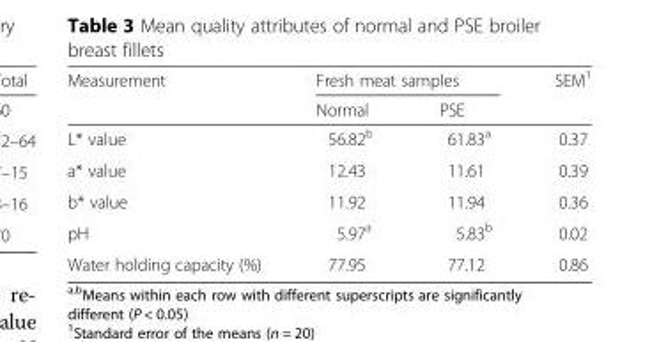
<table><thead><tr><td rowspan="2">Measurement</td><td colspan="2">Fresh meat samples</td><td rowspan="2">SEM<sup>1</sup></td></tr><tr><td>Normal</td><td>PSE</td></tr></thead><tbody><tr><td>L* value</td><td>56.82<sup>b</sup></td><td>61.83<sup>a</sup></td><td>0.37</td></tr><tr><td>a* value</td><td>12.43</td><td>11.61</td><td>0.39</td></tr><tr><td>b* value</td><td>11.92</td><td>11.94</td><td>0.36</td></tr><tr><td>pH</td><td>5.97<sup>a</sup></td><td>5.83<sup>b</sup></td><td>0.02</td></tr><tr><td>Water holding capacity (%)</td><td>77.95</td><td>77.12</td><td>0.86</td></tr></tbody></table>